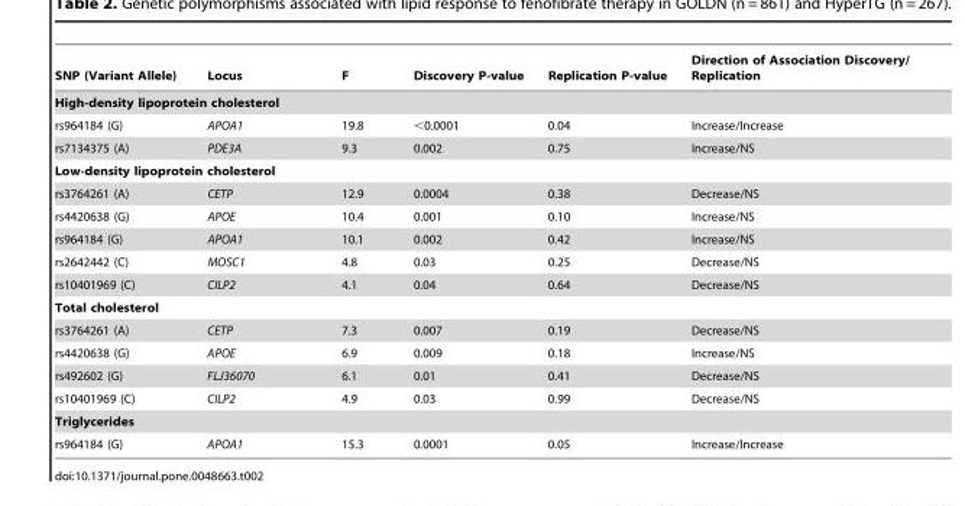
<table><thead><tr><td>SNP (Variant Allele)</td><td>Locus</td><td>F</td><td>Discovery P-value</td><td>Replication P-value</td><td>Direction of Association Discovery/ Replication</td></tr></thead><tbody><tr><td colspan="6">High-density lipoprotein cholesterol</td></tr><tr><td>rs964184 (G)</td><td>APOA1</td><td>19.8</td><td>&lt;0.0001</td><td>0.04</td><td>Increase/Increase</td></tr><tr><td>rs7134375 (A)</td><td>PDE3A</td><td>9.3</td><td>0.002</td><td>0.75</td><td>Increase/NS</td></tr><tr><td colspan="6">Low-density lipoprotein cholesterol</td></tr><tr><td>rs3764261 (A)</td><td>CETP</td><td>12.9</td><td>0.0004</td><td>0.38</td><td>Decrease/NS</td></tr><tr><td>rs4420638 (G)</td><td>APOE</td><td>10.4</td><td>0.001</td><td>0.10</td><td>Increase/NS</td></tr><tr><td>rs964184 (G)</td><td>APOA1</td><td>10.1</td><td>0.002</td><td>0.42</td><td>Increase/NS</td></tr><tr><td>rs2642442 (C)</td><td>MOSC1</td><td>4.8</td><td>0.03</td><td>0.25</td><td>Decrease/NS</td></tr><tr><td>rs10401969 (C)</td><td>CILP2</td><td>4.1</td><td>0.04</td><td>0.64</td><td>Decrease/NS</td></tr><tr><td colspan="6">Total cholesterol</td></tr><tr><td>rs3764261 (A)</td><td>CETP</td><td>7.3</td><td>0.007</td><td>0.19</td><td>Decrease/NS</td></tr><tr><td>rs4420638 (G)</td><td>APOE</td><td>6.9</td><td>0.009</td><td>0.18</td><td>Increase/NS</td></tr><tr><td>rs492602 (G)</td><td>FLJ36070</td><td>6.1</td><td>0.01</td><td>0.41</td><td>Decrease/NS</td></tr><tr><td>rs10401969 (C)</td><td>CILP2</td><td>4.9</td><td>0.03</td><td>0.99</td><td>Decrease/NS</td></tr><tr><td colspan="6">Triglycerides</td></tr><tr><td>rs964184 (G)</td><td>APOA1</td><td>15.3</td><td>0.0001</td><td>0.05</td><td>Increase/Increase</td></tr></tbody></table>